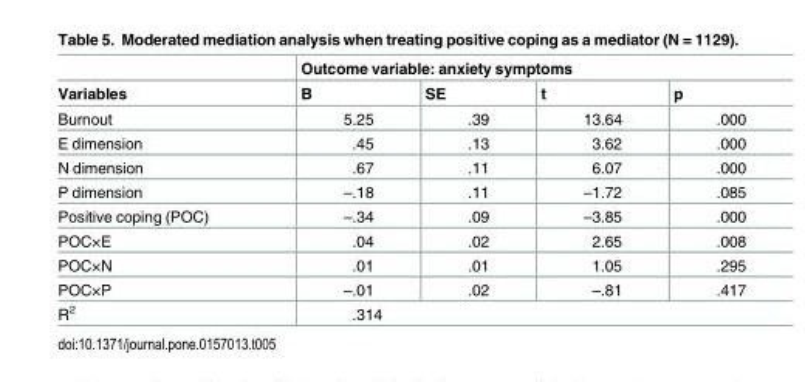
<table><thead><tr><td rowspan="2">Variables</td><td colspan="4">Outcome variable: anxiety symptoms</td></tr><tr><td>B</td><td>SE</td><td>t</td><td>p</td></tr></thead><tbody><tr><td>Burnout</td><td>5.25</td><td>.39</td><td>13.64</td><td>.000</td></tr><tr><td>E dimension</td><td>.45</td><td>.13</td><td>3.62</td><td>.000</td></tr><tr><td>N dimension</td><td>.67</td><td>.11</td><td>6.07</td><td>.000</td></tr><tr><td>P dimension</td><td>–.18</td><td>.11</td><td>–1.72</td><td>.085</td></tr><tr><td>Positive coping (POC)</td><td>–.34</td><td>.09</td><td>–3.85</td><td>.000</td></tr><tr><td>POC×E</td><td>.04</td><td>.02</td><td>2.65</td><td>.008</td></tr><tr><td>POC×N</td><td>.01</td><td>.01</td><td>1.05</td><td>.295</td></tr><tr><td>POC×P</td><td>–.01</td><td>.02</td><td>–.81</td><td>.417</td></tr><tr><td>R<sup>2</sup></td><td colspan="4">.314</td></tr></tbody></table>